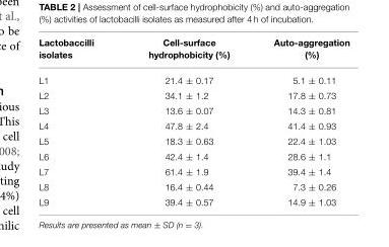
<table><thead><tr><td>Lactobaccilli isolates</td><td>Cell-surface hydrophobicity (%)</td><td>Auto-aggregation (%)</td></tr></thead><tbody><tr><td>L1</td><td>21.4 ± 0.17</td><td>5.1 ± 0.11</td></tr><tr><td>L2</td><td>34.1 ± 1.2</td><td>17.8 ± 0.73</td></tr><tr><td>L3</td><td>13.6 ± 0.07</td><td>14.3 ± 0.81</td></tr><tr><td>L4</td><td>47.8 ± 2.4</td><td>41.4 ± 0.93</td></tr><tr><td>L5</td><td>18.3 ± 0.63</td><td>22.4 ± 1.03</td></tr><tr><td>L6</td><td>42.4 ± 1.4</td><td>28.6 ± 1.1</td></tr><tr><td>L7</td><td>61.4 ± 1.9</td><td>39.4 ± 1.4</td></tr><tr><td>L8</td><td>16.4 ± 0.44</td><td>7.3 ± 0.26</td></tr><tr><td>L9</td><td>39.4 ± 0.57</td><td>14.9 ± 1.03</td></tr></tbody></table>